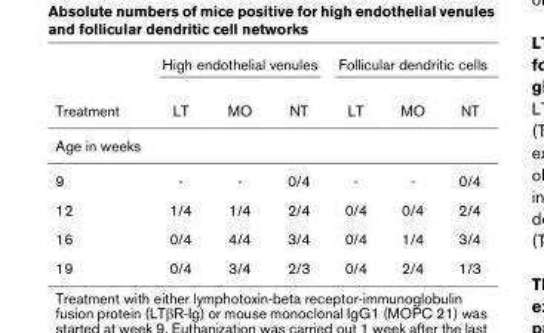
<table><thead><tr><td rowspan="2">Treatment</td><td colspan="3">High endothelial venules</td><td colspan="3">Follicular dendritic cells</td></tr><tr><td>LT</td><td>MO</td><td>NT</td><td>LT</td><td>MO</td><td>NT</td></tr></thead><tbody><tr><td colspan="7">Age in weeks</td></tr><tr><td>9</td><td>-</td><td>-</td><td>0/4</td><td>-</td><td>-</td><td>0/4</td></tr><tr><td>12</td><td>1/4</td><td>1/4</td><td>2/4</td><td>0/4</td><td>0/4</td><td>2/4</td></tr><tr><td>16</td><td>0/4</td><td>4/4</td><td>3/4</td><td>0/4</td><td>1/4</td><td>3/4</td></tr><tr><td>19</td><td>0/4</td><td>3/4</td><td>2/3</td><td>0/4</td><td>2/4</td><td>1/3</td></tr></tbody></table>